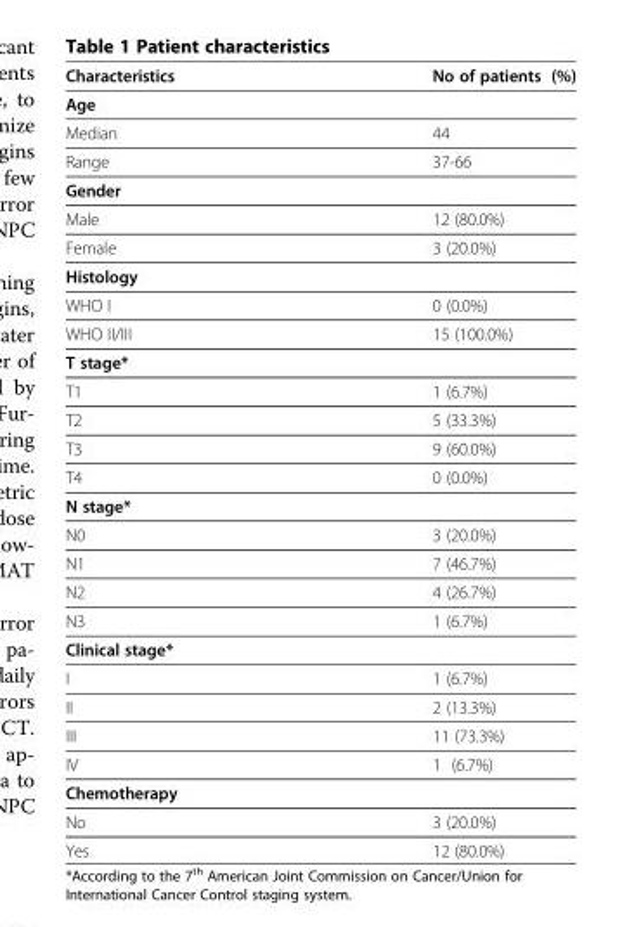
<table><thead><tr><td>Characteristics</td><td>No of patients (%)</td></tr></thead><tbody><tr><td colspan="2">Age</td></tr><tr><td>Median</td><td>44</td></tr><tr><td>Range</td><td>37-66</td></tr><tr><td colspan="2">Gender</td></tr><tr><td>Male</td><td>12 (80.0%)</td></tr><tr><td>Female</td><td>3 (20.0%)</td></tr><tr><td colspan="2">Histology</td></tr><tr><td>WHO I</td><td>0 (0.0%)</td></tr><tr><td>WHO II/III</td><td>15 (100.0%)</td></tr><tr><td colspan="2">T stage*</td></tr><tr><td>T1</td><td>1 (6.7%)</td></tr><tr><td>T2</td><td>5 (33.3%)</td></tr><tr><td>T3</td><td>9 (60.0%)</td></tr><tr><td>T4</td><td>0 (0.0%)</td></tr><tr><td colspan="2">N stage*</td></tr><tr><td>N0</td><td>3 (20.0%)</td></tr><tr><td>N1</td><td>7 (46.7%)</td></tr><tr><td>N2</td><td>4 (26.7%)</td></tr><tr><td>N3</td><td>1 (6.7%)</td></tr><tr><td colspan="2">Clinical stage*</td></tr><tr><td>I</td><td>1 (6.7%)</td></tr><tr><td>II</td><td>2 (13.3%)</td></tr><tr><td>III</td><td>11 (73.3%)</td></tr><tr><td>IV</td><td>1 (6.7%)</td></tr><tr><td colspan="2">Chemotherapy</td></tr><tr><td>No</td><td>3 (20.0%)</td></tr><tr><td>Yes</td><td>12 (80.0%)</td></tr></tbody></table>